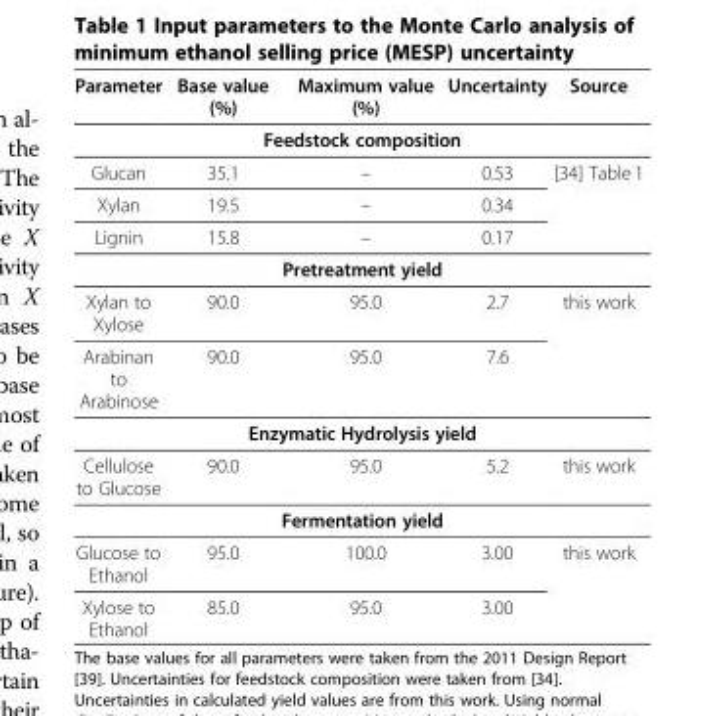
<table><thead><tr><td>Parameter</td><td>Base value (%)</td><td>Maximum value (%)</td><td>Uncertainty</td><td>Source</td></tr></thead><tbody><tr><td colspan="5">Feedstock composition</td></tr><tr><td>Glucan</td><td>35.1</td><td>–</td><td>0.53</td><td rowspan="3">[34] Table 1</td></tr><tr><td>Xylan</td><td>19.5</td><td>–</td><td>0.34</td></tr><tr><td>Lignin</td><td>15.8</td><td>–</td><td>0.17</td></tr><tr><td colspan="5">Pretreatment yield</td></tr><tr><td>Xylan to Xylose</td><td>90.0</td><td>95.0</td><td>2.7</td><td rowspan="2">this work</td></tr><tr><td>Arabinan to Arabinose</td><td>90.0</td><td>95.0</td><td>7.6</td></tr><tr><td colspan="5">Enzymatic Hydrolysis yield</td></tr><tr><td>Cellulose to Glucose</td><td>90.0</td><td>95.0</td><td>5.2</td><td>this work</td></tr><tr><td colspan="5">Fermentation yield</td></tr><tr><td>Glucose to Ethanol</td><td>95.0</td><td>100.0</td><td>3.00</td><td rowspan="2">this work</td></tr><tr><td>Xylose to Ethanol</td><td>85.0</td><td>95.0</td><td>3.00</td></tr></tbody></table>